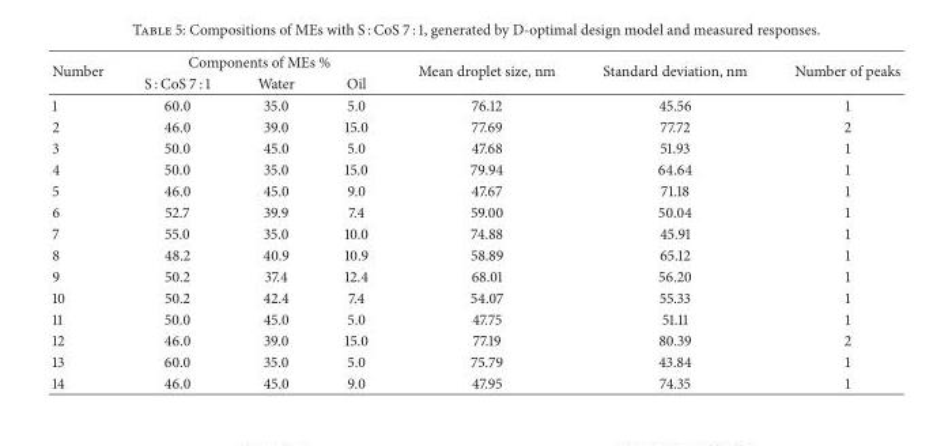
<table><thead><tr><td rowspan="2">Number</td><td colspan="3">Components of MEs %</td><td rowspan="2">Mean droplet size, nm</td><td rowspan="2">Standard deviation, nm</td><td rowspan="2">Number of peaks</td></tr><tr><td>S : CoS 7 : 1</td><td>Water</td><td>Oil</td></tr></thead><tbody><tr><td>1</td><td>60.0</td><td>35.0</td><td>5.0</td><td>76.12</td><td>45.56</td><td>1</td></tr><tr><td>2</td><td>46.0</td><td>39.0</td><td>15.0</td><td>77.69</td><td>77.72</td><td>2</td></tr><tr><td>3</td><td>50.0</td><td>45.0</td><td>5.0</td><td>47.68</td><td>51.93</td><td>1</td></tr><tr><td>4</td><td>50.0</td><td>35.0</td><td>15.0</td><td>79.94</td><td>64.64</td><td>1</td></tr><tr><td>5</td><td>46.0</td><td>45.0</td><td>9.0</td><td>47.67</td><td>71.18</td><td>1</td></tr><tr><td>6</td><td>52.7</td><td>39.9</td><td>7.4</td><td>59.00</td><td>50.04</td><td>1</td></tr><tr><td>7</td><td>55.0</td><td>35.0</td><td>10.0</td><td>74.88</td><td>45.91</td><td>1</td></tr><tr><td>8</td><td>48.2</td><td>40.9</td><td>10.9</td><td>58.89</td><td>65.12</td><td>1</td></tr><tr><td>9</td><td>50.2</td><td>37.4</td><td>12.4</td><td>68.01</td><td>56.20</td><td>1</td></tr><tr><td>10</td><td>50.2</td><td>42.4</td><td>7.4</td><td>54.07</td><td>55.33</td><td>1</td></tr><tr><td>11</td><td>50.0</td><td>45.0</td><td>5.0</td><td>47.75</td><td>51.11</td><td>1</td></tr><tr><td>12</td><td>46.0</td><td>39.0</td><td>15.0</td><td>77.19</td><td>80.39</td><td>2</td></tr><tr><td>13</td><td>60.0</td><td>35.0</td><td>5.0</td><td>75.79</td><td>43.84</td><td>1</td></tr><tr><td>14</td><td>46.0</td><td>45.0</td><td>9.0</td><td>47.95</td><td>74.35</td><td>1</td></tr></tbody></table>